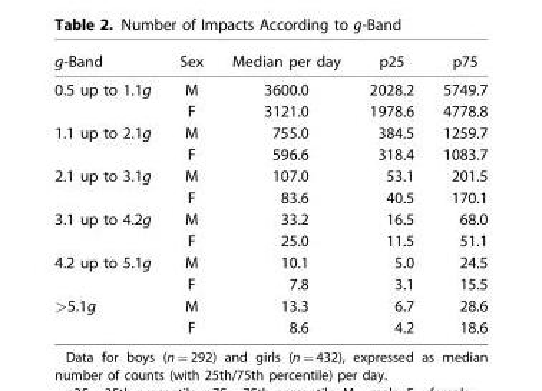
<table><thead><tr><td>g-Band</td><td>Sex</td><td>Median per day</td><td>p25</td><td>p75</td></tr></thead><tbody><tr><td rowspan="2">0.5 up to 1.1g</td><td>M</td><td>3600.0</td><td>2028.2</td><td>5749.7</td></tr><tr><td>F</td><td>3121.0</td><td>1978.6</td><td>4778.8</td></tr><tr><td rowspan="2">1.1 up to 2.1g</td><td>M</td><td>755.0</td><td>384.5</td><td>1259.7</td></tr><tr><td>F</td><td>596.6</td><td>318.4</td><td>1083.7</td></tr><tr><td rowspan="2">2.1 up to 3.1g</td><td>M</td><td>107.0</td><td>53.1</td><td>201.5</td></tr><tr><td>F</td><td>83.6</td><td>40.5</td><td>170.1</td></tr><tr><td rowspan="2">3.1 up to 4.2g</td><td>M</td><td>33.2</td><td>16.5</td><td>68.0</td></tr><tr><td>F</td><td>25.0</td><td>11.5</td><td>51.1</td></tr><tr><td rowspan="2">4.2 up to 5.1g</td><td>M</td><td>10.1</td><td>5.0</td><td>24.5</td></tr><tr><td>F</td><td>7.8</td><td>3.1</td><td>15.5</td></tr><tr><td rowspan="2">&gt;5.1g</td><td>M</td><td>13.3</td><td>6.7</td><td>28.6</td></tr><tr><td>F</td><td>8.6</td><td>4.2</td><td>18.6</td></tr></tbody></table>